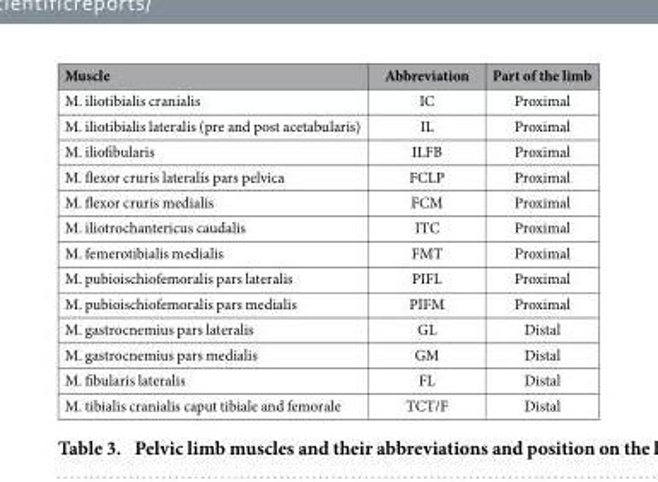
<table><thead><tr><td>Muscle</td><td>Abbreviation</td><td>Part of the limb</td></tr></thead><tbody><tr><td>M. iliotibialis cranialis</td><td>IC</td><td>Proximal</td></tr><tr><td>M. iliotibialis lateralis (pre and post acetabularis)</td><td>IL</td><td>Proximal</td></tr><tr><td>M. iliofibularis</td><td>ILFB</td><td>Proximal</td></tr><tr><td>M. flexor cruris lateralis pars pelvica</td><td>FCLP</td><td>Proximal</td></tr><tr><td>M. flexor cruris medialis</td><td>FCM</td><td>Proximal</td></tr><tr><td>M. iliotrochantericus caudalis</td><td>ITC</td><td>Proximal</td></tr><tr><td>M. femerotibialis medialis</td><td>FMT</td><td>Proximal</td></tr><tr><td>M. pubioischiofemoralis pars lateralis</td><td>PIFL</td><td>Proximal</td></tr><tr><td>M. pubioischiofemoralis pars medialis</td><td>PIFM</td><td>Proximal</td></tr><tr><td>M. gastrocnemius pars lateralis</td><td>GL</td><td>Distal</td></tr><tr><td>M. gastrocnemius pars medialis</td><td>GM</td><td>Distal</td></tr><tr><td>M. fibularis lateralis</td><td>FL</td><td>Distal</td></tr><tr><td>M. tibialis cranialis caput tibiale and femorale</td><td>TCT/F</td><td>Distal</td></tr></tbody></table>